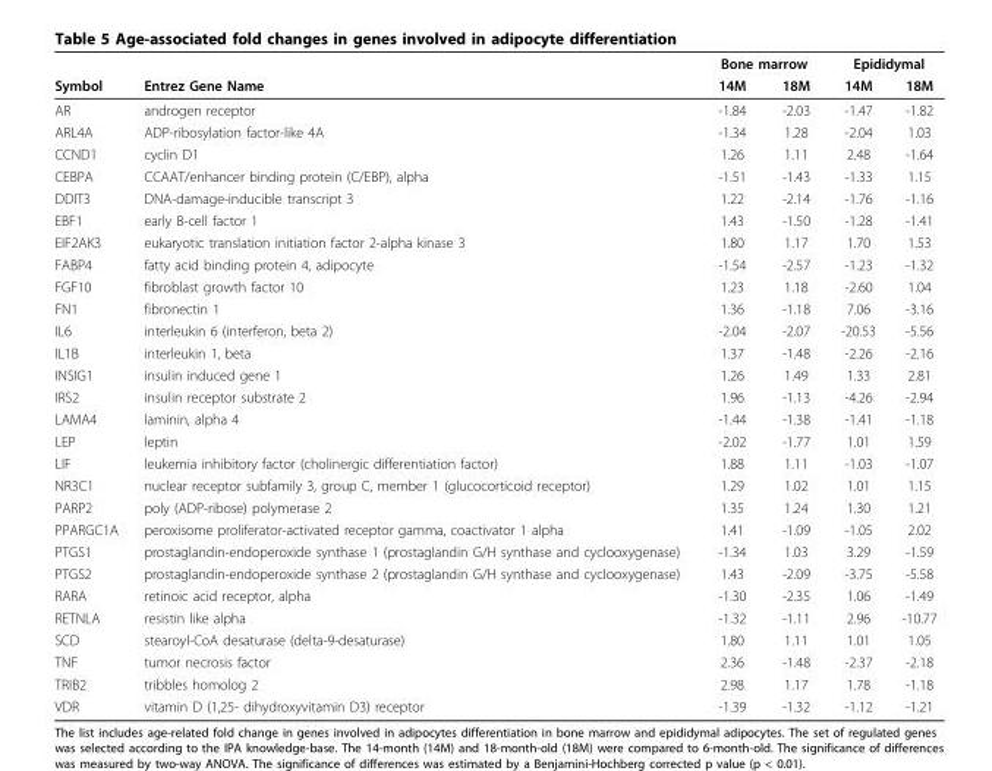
<table><thead><tr><td rowspan="2">Symbol</td><td rowspan="2">Entrez Gene Name</td><td colspan="2">Bone marrow</td><td colspan="2">Epididymal</td></tr><tr><td>14M</td><td>18M</td><td>14M</td><td>18M</td></tr></thead><tbody><tr><td>AR</td><td>androgen receptor</td><td>-1.84</td><td>-2.03</td><td>-1.47</td><td>-1.82</td></tr><tr><td>ARL4A</td><td>ADP-ribosylation factor-like 4A</td><td>-1.34</td><td>1.28</td><td>-2.04</td><td>1.03</td></tr><tr><td>CCND1</td><td>cyclin D1</td><td>1.26</td><td>1.11</td><td>2.48</td><td>-1.64</td></tr><tr><td>CEBPA</td><td>CCAAT/enhancer binding protein (C/EBP), alpha</td><td>-1.51</td><td>-1.43</td><td>-1.33</td><td>1.15</td></tr><tr><td>DDIT3</td><td>DNA-damage-inducible transcript 3</td><td>1.22</td><td>-2.14</td><td>-1.76</td><td>-1.16</td></tr><tr><td>EBF1</td><td>early B-cell factor 1</td><td>1.43</td><td>-1.50</td><td>-1.28</td><td>-1.41</td></tr><tr><td>EIF2AK3</td><td>eukaryotic translation initiation factor 2-alpha kinase 3</td><td>1.80</td><td>1.17</td><td>1.70</td><td>1.53</td></tr><tr><td>FABP4</td><td>fatty acid binding protein 4, adipocyte</td><td>-1.54</td><td>-2.57</td><td>-1.23</td><td>-1.32</td></tr><tr><td>FGF10</td><td>fibroblast growth factor 10</td><td>1.23</td><td>1.18</td><td>-2.60</td><td>1.04</td></tr><tr><td>FN1</td><td>fibronectin 1</td><td>1.36</td><td>-1.18</td><td>7.06</td><td>-3.16</td></tr><tr><td>IL6</td><td>interleukin 6 (interferon, beta 2)</td><td>-2.04</td><td>-2.07</td><td>-20.53</td><td>-5.56</td></tr><tr><td>IL1B</td><td>interleukin 1, beta</td><td>1.37</td><td>-1.48</td><td>-2.26</td><td>-2.16</td></tr><tr><td>INSIG1</td><td>insulin induced gene 1</td><td>1.26</td><td>1.49</td><td>1.33</td><td>2.81</td></tr><tr><td>IRS2</td><td>insulin receptor substrate 2</td><td>1.96</td><td>-1.13</td><td>-4.26</td><td>-2.94</td></tr><tr><td>LAMA4</td><td>laminin, alpha 4</td><td>-1.44</td><td>-1.38</td><td>-1.41</td><td>-1.18</td></tr><tr><td>LEP</td><td>leptin</td><td>-2.02</td><td>-1.77</td><td>1.01</td><td>1.59</td></tr><tr><td>LIF</td><td>leukemia inhibitory factor (cholinergic differentiation factor)</td><td>1.88</td><td>1.11</td><td>-1.03</td><td>-1.07</td></tr><tr><td>NR3C1</td><td>nuclear receptor subfamily 3, group C, member 1 (glucocorticoid receptor)</td><td>1.29</td><td>1.02</td><td>1.01</td><td>1.15</td></tr><tr><td>PARP2</td><td>poly (ADP-ribose) polymerase 2</td><td>1.35</td><td>1.24</td><td>1.30</td><td>1.21</td></tr><tr><td>PPARGC1A</td><td>peroxisome proliferator-activated receptor gamma, coactivator 1 alpha</td><td>1.41</td><td>-1.09</td><td>-1.05</td><td>2.02</td></tr><tr><td>PTGS1</td><td>prostaglandin-endoperoxide synthase 1 (prostaglandin G/H synthase and cyclooxygenase)</td><td>-1.34</td><td>1.03</td><td>3.29</td><td>-1.59</td></tr><tr><td>PTGS2</td><td>prostaglandin-endoperoxide synthase 2 (prostaglandin G/H synthase and cyclooxygenase)</td><td>1.43</td><td>-2.09</td><td>-3.75</td><td>-5.58</td></tr><tr><td>RARA</td><td>retinoic acid receptor, alpha</td><td>-1.30</td><td>-2.35</td><td>1.06</td><td>-1.49</td></tr><tr><td>RETNLA</td><td>resistin like alpha</td><td>-1.32</td><td>-1.11</td><td>2.96</td><td>-10.77</td></tr><tr><td>SCD</td><td>stearoyl-CoA desaturase (delta-9-desaturase)</td><td>1.80</td><td>1.11</td><td>1.01</td><td>1.05</td></tr><tr><td>TNF</td><td>tumor necrosis factor</td><td>2.36</td><td>-1.48</td><td>-2.37</td><td>-2.18</td></tr><tr><td>TRIB2</td><td>tribbles homolog 2</td><td>2.98</td><td>1.17</td><td>1.78</td><td>-1.18</td></tr><tr><td>VDR</td><td>vitamin D (1,25- dihydroxyvitamin D3) receptor</td><td>-1.39</td><td>-1.32</td><td>-1.12</td><td>-1.21</td></tr></tbody></table>